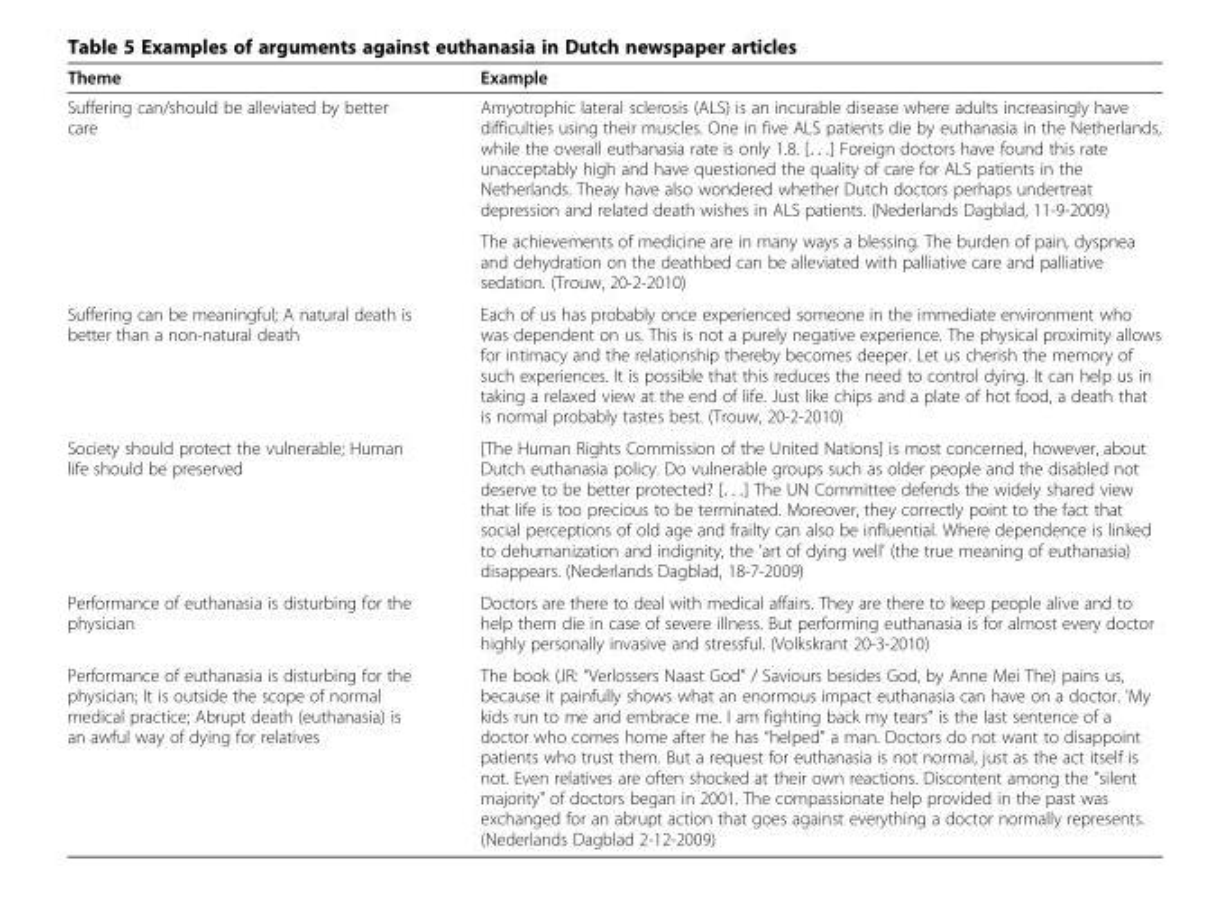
<table><thead><tr><td>Theme</td><td>Example</td></tr></thead><tbody><tr><td rowspan="2">Suffering can/should be alleviated by better care</td><td>Amyotrophic lateral sclerosis (ALS) is an incurable disease where adults increasingly have difficulties using their muscles. One in five ALS patients die by euthanasia in the Netherlands, while the overall euthanasia rate is only 1.8. [. . .] Foreign doctors have found this rate unacceptably high and have questioned the quality of care for ALS patients in the Netherlands. Theay have also wondered whether Dutch doctors perhaps undertreat depression and related death wishes in ALS patients. (Nederlands Dagblad, 11-9-2009)</td></tr><tr><td>The achievements of medicine are in many ways a blessing. The burden of pain, dyspnea and dehydration on the deathbed can be alleviated with palliative care and palliative sedation. (Trouw, 20-2-2010)</td></tr><tr><td>Suffering can be meaningful; A natural death is better than a non-natural death</td><td>Each of us has probably once experienced someone in the immediate environment who was dependent on us. This is not a purely negative experience. The physical proximity allows for intimacy and the relationship thereby becomes deeper. Let us cherish the memory of such experiences. It is possible that this reduces the need to control dying. It can help us in taking a relaxed view at the end of life. Just like chips and a plate of hot food, a death that is normal probably tastes best. (Trouw, 20-2-2010)</td></tr><tr><td>Society should protect the vulnerable; Human life should be preserved</td><td>[The Human Rights Commission of the United Nations] is most concerned, however, about Dutch euthanasia policy. Do vulnerable groups such as older people and the disabled not deserve to be better protected? [. . .] The UN Committee defends the widely shared view that life is too precious to be terminated. Moreover, they correctly point to the fact that social perceptions of old age and frailty can also be influential. Where dependence is linked to dehumanization and indignity, the &#x27;art of dying well&#x27; (the true meaning of euthanasia) disappears. (Nederlands Dagblad, 18-7-2009)</td></tr><tr><td>Performance of euthanasia is disturbing for the physician</td><td>Doctors are there to deal with medical affairs. They are there to keep people alive and to help them die in case of severe illness. But performing euthanasia is for almost every doctor highly personally invasive and stressful. (Volkskrant 20-3-2010)</td></tr><tr><td>Performance of euthanasia is disturbing for the physician; It is outside the scope of normal medical practice; Abrupt death (euthanasia) is an awful way of dying for relatives</td><td>The book (JR: “Verlossers Naast God” / Saviours besides God, by Anne Mei The) pains us, because it painfully shows what an enormous impact euthanasia can have on a doctor. &#x27;My kids run to me and embrace me. I am fighting back my tears” is the last sentence of a doctor who comes home after he has “helped” a man. Doctors do not want to disappoint patients who trust them. But a request for euthanasia is not normal, just as the act itself is not. Even relatives are often shocked at their own reactions. Discontent among the &quot;silent majority&quot; of doctors began in 2001. The compassionate help provided in the past was exchanged for an abrupt action that goes against everything a doctor normally represents. (Nederlands Dagblad 2-12-2009)</td></tr></tbody></table>